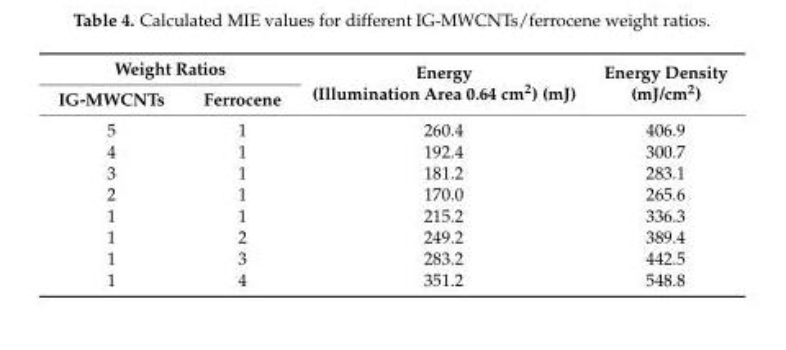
<table><thead><tr><td colspan="2">Weight Ratios</td><td rowspan="2">Energy (Illumination Area 0.64 cm<sup>2</sup>) (mJ)</td><td rowspan="2">Energy Density (mJ/cm<sup>2</sup>)</td></tr><tr><td>IG-MWCNTs</td><td>Ferrocene</td></tr></thead><tbody><tr><td>5</td><td>1</td><td>260.4</td><td>406.9</td></tr><tr><td>4</td><td>1</td><td>192.4</td><td>300.7</td></tr><tr><td>3</td><td>1</td><td>181.2</td><td>283.1</td></tr><tr><td>2</td><td>1</td><td>170.0</td><td>265.6</td></tr><tr><td>1</td><td>1</td><td>215.2</td><td>336.3</td></tr><tr><td>1</td><td>2</td><td>249.2</td><td>389.4</td></tr><tr><td>1</td><td>3</td><td>283.2</td><td>442.5</td></tr><tr><td>1</td><td>4</td><td>351.2</td><td>548.8</td></tr></tbody></table>